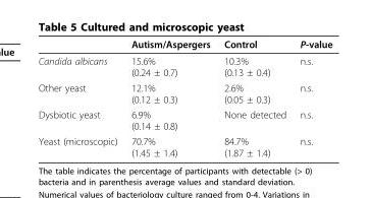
<table><thead><tr><td></td><td>Autism/Aspergers</td><td>Control</td><td>P-value</td></tr></thead><tbody><tr><td>Candida albicans</td><td>15.6% (0.24 ± 0.7)</td><td>10.3% (0.13 ± 0.4)</td><td>n.s.</td></tr><tr><td>Other yeast</td><td>12.1% (0.12 ± 0.3)</td><td>2.6% (0.05 ± 0.3)</td><td>n.s.</td></tr><tr><td>Dysbiotic yeast</td><td>6.9% (0.14 ± 0.8)</td><td>None detected</td><td>n.s.</td></tr><tr><td>Yeast (microscopic)</td><td>70.7% (1.45 ± 1.4)</td><td>84.7% (1.87 ± 1.4)</td><td>n.s.</td></tr></tbody></table>